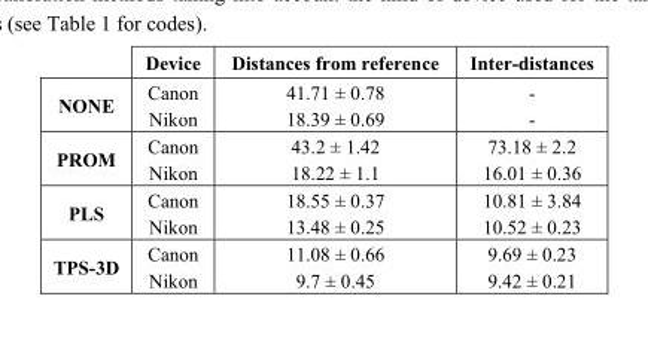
<table><thead><tr><td></td><td>Device</td><td>Distances from reference</td><td>Inter-distances</td></tr></thead><tbody><tr><td rowspan="2">NONE</td><td>Canon</td><td>41.71 ± 0.78</td><td>-</td></tr><tr><td>Nikon</td><td>18.39 ± 0.69</td><td>-</td></tr><tr><td rowspan="2">PROM</td><td>Canon</td><td>43.2 ± 1.42</td><td>73.18 ± 2.2</td></tr><tr><td>Nikon</td><td>18.22 ± 1.1</td><td>16.01 ± 0.36</td></tr><tr><td rowspan="2">PLS</td><td>Canon</td><td>18.55 ± 0.37</td><td>10.81 ± 3.84</td></tr><tr><td>Nikon</td><td>13.48 ± 0.25</td><td>10.52 ± 0.23</td></tr><tr><td rowspan="2">TPS-3D</td><td>Canon</td><td>11.08 ± 0.66</td><td>9.69 ± 0.23</td></tr><tr><td>Nikon</td><td>9.7 ± 0.45</td><td>9.42 ± 0.21</td></tr></tbody></table>